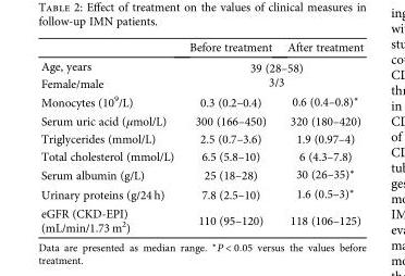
<table><thead><tr><td></td><td>Before treatment</td><td>After treatment</td></tr></thead><tbody><tr><td>Age, years</td><td rowspan="2" colspan="2">39 (28–58) 3/3</td></tr><tr><td>Female/male</td></tr><tr><td>Monocytes (10<sup>9</sup>/L)</td><td>0.3 (0.2–0.4)</td><td>0.6 (0.4–0.8)∗</td></tr><tr><td>Serum uric acid (μmol/L)</td><td>300 (166–450)</td><td>320 (180–420)</td></tr><tr><td>Triglycerides (mmol/L)</td><td>2.5 (0.7–3.6)</td><td>1.9 (0.97–4)</td></tr><tr><td>Total cholesterol (mmol/L)</td><td>6.5 (5.8–10)</td><td>6 (4.3–7.8)</td></tr><tr><td>Serum albumin (g/L)</td><td>25 (18–28)</td><td>30 (26–35)∗</td></tr><tr><td>Urinary proteins (g/24 h)</td><td>7.8 (2.5–10)</td><td>1.6 (0.5–3)∗</td></tr><tr><td>eGFR (CKD-EPI) (mL/min/1.73 m<sup>2</sup>)</td><td>110 (95–120)</td><td>118 (106–125)</td></tr></tbody></table>